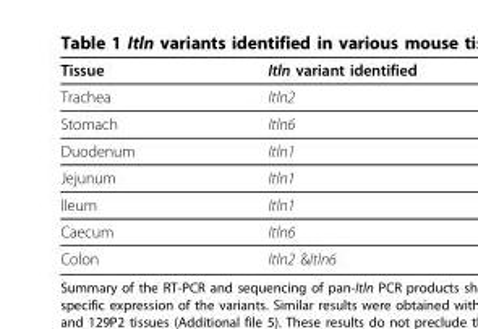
<table><thead><tr><td>Tissue</td><td>Itln variant identified</td></tr></thead><tbody><tr><td>Trachea</td><td>Itln2</td></tr><tr><td>Stomach</td><td>Itln6</td></tr><tr><td>Duodenum</td><td>Itln1</td></tr><tr><td>Jejunum</td><td>Itln1</td></tr><tr><td>Ileum</td><td>Itln1</td></tr><tr><td>Caecum</td><td>Itln6</td></tr><tr><td>Colon</td><td>Itln2 &amp;Itln6</td></tr></tbody></table>